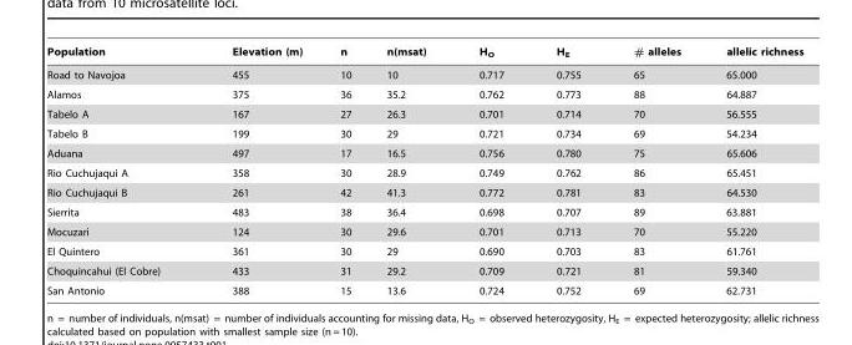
<table><thead><tr><td>Population</td><td>Elevation (m)</td><td>n</td><td>n(msat)</td><td>H<sub>O</sub></td><td>H<sub>E</sub></td><td># alleles</td><td>allelic richness</td></tr></thead><tbody><tr><td>Road to Navojoa</td><td>455</td><td>10</td><td>10</td><td>0.717</td><td>0.755</td><td>65</td><td>65.000</td></tr><tr><td>Alamos</td><td>375</td><td>36</td><td>35.2</td><td>0.762</td><td>0.773</td><td>88</td><td>64.887</td></tr><tr><td>Tabelo A</td><td>167</td><td>27</td><td>26.3</td><td>0.701</td><td>0.714</td><td>70</td><td>56.555</td></tr><tr><td>Tabelo B</td><td>199</td><td>30</td><td>29</td><td>0.721</td><td>0.734</td><td>69</td><td>54.234</td></tr><tr><td>Aduana</td><td>497</td><td>17</td><td>16.5</td><td>0.756</td><td>0.780</td><td>75</td><td>65.606</td></tr><tr><td>Rio Cuchujaqui A</td><td>358</td><td>30</td><td>28.9</td><td>0.749</td><td>0.762</td><td>86</td><td>65.451</td></tr><tr><td>Rio Cuchujaqui B</td><td>261</td><td>42</td><td>41.3</td><td>0.772</td><td>0.781</td><td>83</td><td>64.530</td></tr><tr><td>Sierrita</td><td>483</td><td>38</td><td>36.4</td><td>0.698</td><td>0.707</td><td>89</td><td>63.881</td></tr><tr><td>Mocuzari</td><td>124</td><td>30</td><td>29.6</td><td>0.701</td><td>0.713</td><td>70</td><td>55.220</td></tr><tr><td>El Quintero</td><td>361</td><td>30</td><td>29</td><td>0.690</td><td>0.703</td><td>83</td><td>61.761</td></tr><tr><td>Choquincahui (El Cobre)</td><td>433</td><td>31</td><td>29.2</td><td>0.709</td><td>0.721</td><td>81</td><td>59.340</td></tr><tr><td>San Antonio</td><td>388</td><td>15</td><td>13.6</td><td>0.724</td><td>0.752</td><td>69</td><td>62.731</td></tr></tbody></table>